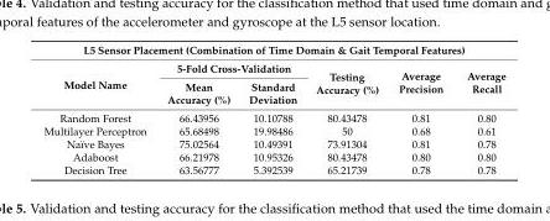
<table><thead><tr><td colspan="6">L5 Sensor Placement (Combination of Time Domain &amp; Gait Temporal Features)</td></tr><tr><td rowspan="2">Model Name</td><td colspan="2">5-Fold Cross-Validation</td><td rowspan="2">Testing Accuracy (%)</td><td rowspan="2">Average Precision</td><td rowspan="2">Average Recall</td></tr><tr><td>Mean Accuracy (%)</td><td>Standard Deviation</td></tr></thead><tbody><tr><td>Random Forest</td><td>66.43956</td><td>10.10788</td><td>80.43478</td><td>0.81</td><td>0.80</td></tr><tr><td>Multilayer Perceptron</td><td>65.68498</td><td>19.98486</td><td>50</td><td>0.68</td><td>0.61</td></tr><tr><td>Naïve Bayes</td><td>75.02564</td><td>10.49391</td><td>73.91304</td><td>0.81</td><td>0.78</td></tr><tr><td>Adaboost</td><td>66.21978</td><td>10.95326</td><td>80.43478</td><td>0.80</td><td>0.80</td></tr><tr><td>Decision Tree</td><td>63.56777</td><td>5.392539</td><td>65.21739</td><td>0.78</td><td>0.78</td></tr></tbody></table>